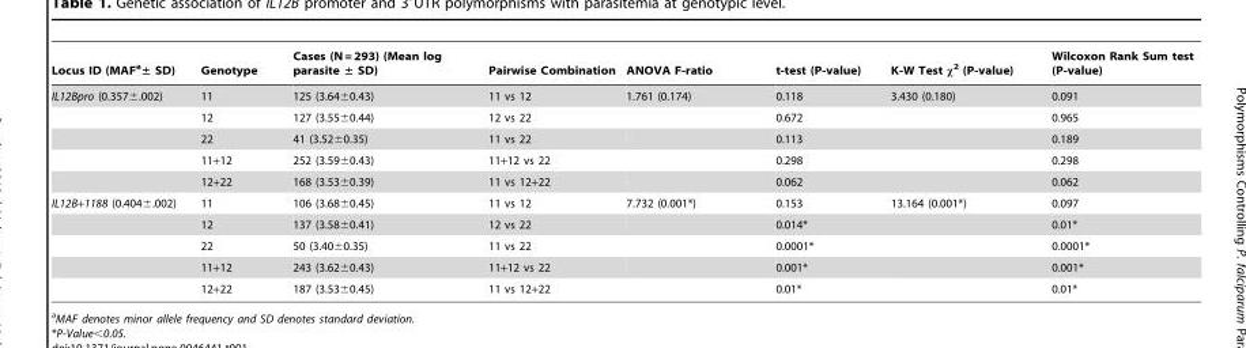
<table><thead><tr><td>Locus ID (MAF<sup>a</sup>± SD)</td><td>Genotype</td><td>Cases (N = 293) (Mean log parasite ± SD)</td><td>Pairwise Combination</td><td>ANOVA F-ratio</td><td>t-test (P-value)</td><td>K-W Test χ<sup>2</sup> (P-value)</td><td>Wilcoxon Rank Sum test (P-value)</td></tr></thead><tbody><tr><td rowspan="5">IL12Bpro (0.357±.002)</td><td>11</td><td>125 (3.64±0.43)</td><td>11 vs 12</td><td>1.761 (0.174)</td><td>0.118</td><td>3.430 (0.180)</td><td>0.091</td></tr><tr><td>12</td><td>127 (3.55±0.44)</td><td>12 vs 22</td><td></td><td>0.672</td><td></td><td>0.965</td></tr><tr><td>22</td><td>41 (3.52±0.35)</td><td>11 vs 22</td><td></td><td>0.113</td><td></td><td>0.189</td></tr><tr><td>11+12</td><td>252 (3.59±0.43)</td><td>11+12 vs 22</td><td></td><td>0.298</td><td></td><td>0.298</td></tr><tr><td>12+22</td><td>168 (3.53±0.39)</td><td>11 vs 12+22</td><td></td><td>0.062</td><td></td><td>0.062</td></tr><tr><td rowspan="5">IL12B+1188 (0.404±.002)</td><td>11</td><td>106 (3.68±0.45)</td><td>11 vs 12</td><td>7.732 (0.001*)</td><td>0.153</td><td>13.164 (0.001*)</td><td>0.097</td></tr><tr><td>12</td><td>137 (3.58±0.41)</td><td>12 vs 22</td><td></td><td>0.014*</td><td></td><td>0.01*</td></tr><tr><td>22</td><td>50 (3.40±0.35)</td><td>11 vs 22</td><td></td><td>0.0001*</td><td></td><td>0.0001*</td></tr><tr><td>11+12</td><td>243 (3.62±0.43)</td><td>11+12 vs 22</td><td></td><td>0.001*</td><td></td><td>0.001*</td></tr><tr><td>12+22</td><td>187 (3.53±0.45)</td><td>11 vs 12+22</td><td></td><td>0.01*</td><td></td><td>0.01*</td></tr></tbody></table>